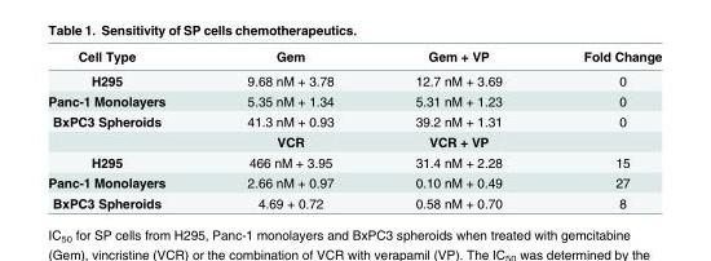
<table><thead><tr><td>Cell Type</td><td>Gem</td><td>Gem + VP</td><td>Fold Change</td></tr></thead><tbody><tr><td>H295</td><td>9.68 nM + 3.78</td><td>12.7 nM + 3.69</td><td>0</td></tr><tr><td>Panc-1 Monolayers</td><td>5.35 nM + 1.34</td><td>5.31 nM + 1.23</td><td>0</td></tr><tr><td rowspan="2">BxPC3 Spheroids</td><td>41.3 nM + 0.93</td><td>39.2 nM + 1.31</td><td>0</td></tr><tr><td>VCR</td><td>VCR + VP</td><td></td></tr><tr><td>H295</td><td>466 nM + 3.95</td><td>31.4 nM + 2.28</td><td>15</td></tr><tr><td>Panc-1 Monolayers</td><td>2.66 nM + 0.97</td><td>0.10 nM + 0.49</td><td>27</td></tr><tr><td>BxPC3 Spheroids</td><td>4.69 + 0.72</td><td>0.58 nM + 0.70</td><td>8</td></tr></tbody></table>